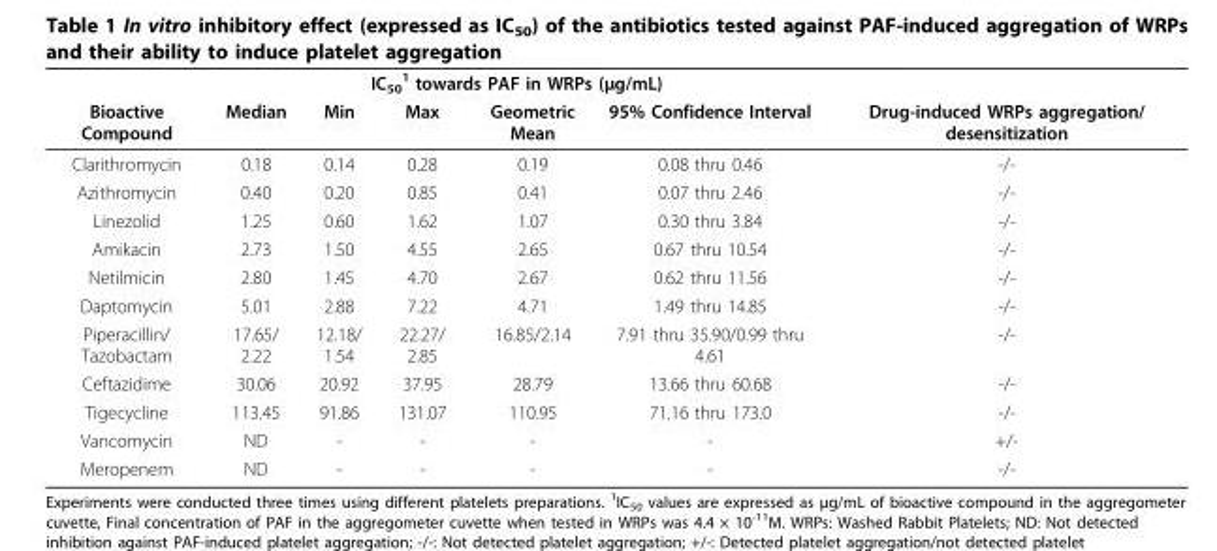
<table><thead><tr><td rowspan="2">Bioactive Compound</td><td colspan="5">IC<sub>50</sub> <sup>1</sup> towards PAF in WRPs (μg/mL)</td><td rowspan="2">Drug-induced WRPs aggregation/ desensitization</td></tr><tr><td>Median</td><td>Min</td><td>Max</td><td>Geometric Mean</td><td>95% Confidence Interval</td></tr></thead><tbody><tr><td>Clarithromycin</td><td>0.18</td><td>0.14</td><td>0.28</td><td>0.19</td><td>0.08 thru 0.46</td><td>-/-</td></tr><tr><td>Azithromycin</td><td>0.40</td><td>0.20</td><td>0.85</td><td>0.41</td><td>0.07 thru 2.46</td><td>-/-</td></tr><tr><td>Linezolid</td><td>1.25</td><td>0.60</td><td>1.62</td><td>1.07</td><td>0.30 thru 3.84</td><td>-/-</td></tr><tr><td>Amikacin</td><td>2.73</td><td>1.50</td><td>4.55</td><td>2.65</td><td>0.67 thru 10.54</td><td>-/-</td></tr><tr><td>Netilmicin</td><td>2.80</td><td>1.45</td><td>4.70</td><td>2.67</td><td>0.62 thru 11.56</td><td>-/-</td></tr><tr><td>Daptomycin</td><td>5.01</td><td>2.88</td><td>7.22</td><td>4.71</td><td>1.49 thru 14.85</td><td>-/-</td></tr><tr><td>Piperacillin/ Tazobactam</td><td>17.65/ 2.22</td><td>12.18/ 1.54</td><td>22.27/ 2.85</td><td>16.85/2.14</td><td>7.91 thru 35.90/0.99 thru 4.61</td><td>-/-</td></tr><tr><td>Ceftazidime</td><td>30.06</td><td>20.92</td><td>37.95</td><td>28.79</td><td>13.66 thru 60.68</td><td>-/-</td></tr><tr><td>Tigecycline</td><td>113.45</td><td>91.86</td><td>131.07</td><td>110.95</td><td>71.16 thru 173.0</td><td>-/-</td></tr><tr><td>Vancomycin</td><td>ND</td><td>-</td><td>-</td><td>-</td><td>-</td><td>+/-</td></tr><tr><td>Meropenem</td><td>ND</td><td>-</td><td>-</td><td>-</td><td>-</td><td>-/-</td></tr></tbody></table>